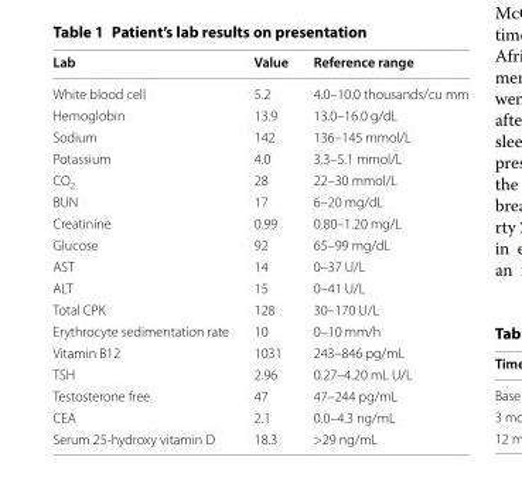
<table><thead><tr><td>Lab</td><td>Value</td><td>Reference range</td></tr></thead><tbody><tr><td>White blood cell</td><td>5.2</td><td>4.0–10.0 thousands/cu mm</td></tr><tr><td>Hemoglobin</td><td>13.9</td><td>13.0–16.0 g/dL</td></tr><tr><td>Sodium</td><td>142</td><td>136–145 mmol/L</td></tr><tr><td>Potassium</td><td>4.0</td><td>3.3–5.1 mmol/L</td></tr><tr><td>CO<sub>2</sub></td><td>28</td><td>22–30 mmol/L</td></tr><tr><td>BUN</td><td>17</td><td>6–20 mg/dL</td></tr><tr><td>Creatinine</td><td>0.99</td><td>0.80–1.20 mg/L</td></tr><tr><td>Glucose</td><td>92</td><td>65–99 mg/dL</td></tr><tr><td>AST</td><td>14</td><td>0–37 U/L</td></tr><tr><td>ALT</td><td>15</td><td>0–41 U/L</td></tr><tr><td>Total CPK</td><td>128</td><td>30–170 U/L</td></tr><tr><td>Erythrocyte sedimentation rate</td><td>10</td><td>0–10 mm/h</td></tr><tr><td>Vitamin B12</td><td>1031</td><td>243–846 pg/mL</td></tr><tr><td>TSH</td><td>2.96</td><td>0.27–4.20 mL U/L</td></tr><tr><td>Testosterone free</td><td>47</td><td>47–244 pg/mL</td></tr><tr><td>CEA</td><td>2.1</td><td>0.0–4.3 ng/mL</td></tr><tr><td>Serum 25-hydroxy vitamin D</td><td>18.3</td><td>&gt;29 ng/mL</td></tr></tbody></table>